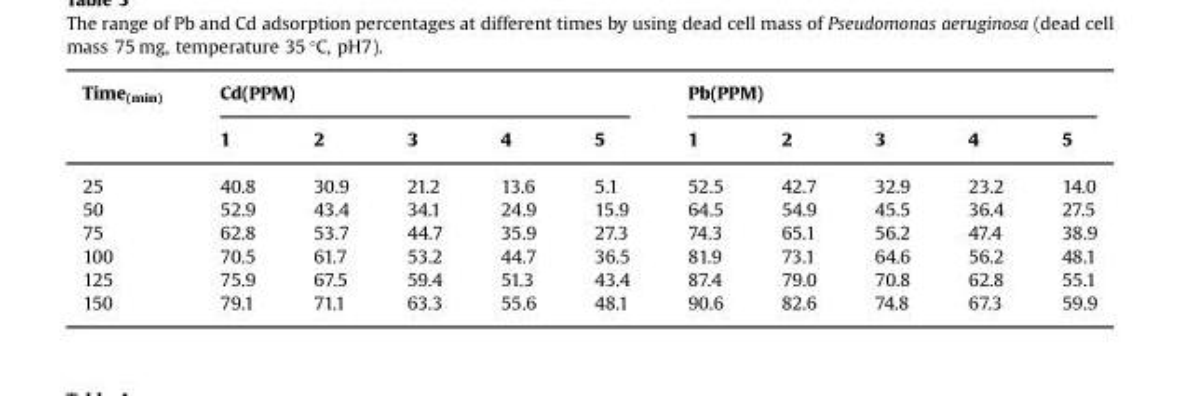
<table><thead><tr><td rowspan="2">Time<sub>(min)</sub></td><td colspan="5">Cd(PPM)</td><td colspan="5">Pb(PPM)</td></tr><tr><td>1</td><td>2</td><td>3</td><td>4</td><td>5</td><td>1</td><td>2</td><td>3</td><td>4</td><td>5</td></tr></thead><tbody><tr><td>25</td><td>40.8</td><td>30.9</td><td>21.2</td><td>13.6</td><td>5.1</td><td>52.5</td><td>42.7</td><td>32.9</td><td>23.2</td><td>14.0</td></tr><tr><td>50</td><td>52.9</td><td>43.4</td><td>34.1</td><td>24.9</td><td>15.9</td><td>64.5</td><td>54.9</td><td>45.5</td><td>36.4</td><td>27.5</td></tr><tr><td>75</td><td>62.8</td><td>53.7</td><td>44.7</td><td>35.9</td><td>27.3</td><td>74.3</td><td>65.1</td><td>56.2</td><td>47.4</td><td>38.9</td></tr><tr><td>100</td><td>70.5</td><td>61.7</td><td>53.2</td><td>44.7</td><td>36.5</td><td>81.9</td><td>73.1</td><td>64.6</td><td>56.2</td><td>48.1</td></tr><tr><td>125</td><td>75.9</td><td>67.5</td><td>59.4</td><td>51.3</td><td>43.4</td><td>87.4</td><td>79.0</td><td>70.8</td><td>62.8</td><td>55.1</td></tr><tr><td>150</td><td>79.1</td><td>71.1</td><td>63.3</td><td>55.6</td><td>48.1</td><td>90.6</td><td>82.6</td><td>74.8</td><td>67.3</td><td>59.9</td></tr></tbody></table>